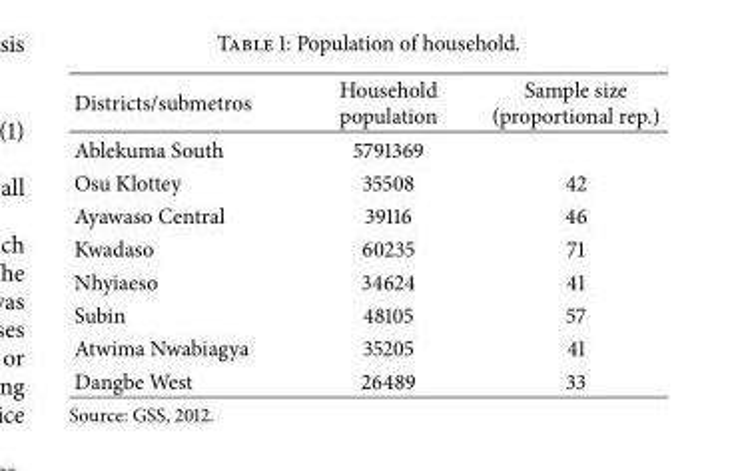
<table><thead><tr><td>Districts/submetros</td><td>Household population</td><td>Sample size (proportional rep.)</td></tr></thead><tbody><tr><td>Ablekuma South</td><td>5791369</td><td></td></tr><tr><td>Osu Klottey</td><td>35508</td><td>42</td></tr><tr><td>Ayawaso Central</td><td>39116</td><td>46</td></tr><tr><td>Kwadaso</td><td>60235</td><td>71</td></tr><tr><td>Nhyiaeso</td><td>34624</td><td>41</td></tr><tr><td>Subin</td><td>48105</td><td>57</td></tr><tr><td>Atwima Nwabiagya</td><td>35205</td><td>41</td></tr><tr><td>Dangbe West</td><td>26489</td><td>33</td></tr></tbody></table>